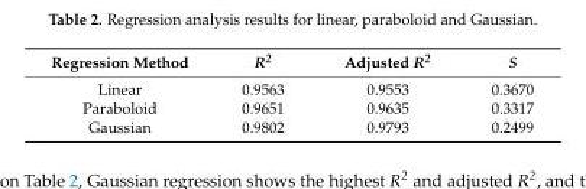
<table><thead><tr><td>Regression Method</td><td>R<sup>2</sup></td><td>Adjusted R<sup>2</sup></td><td>S</td></tr></thead><tbody><tr><td>Linear</td><td>0.9563</td><td>0.9553</td><td>0.3670</td></tr><tr><td>Paraboloid</td><td>0.9651</td><td>0.9635</td><td>0.3317</td></tr><tr><td>Gaussian</td><td>0.9802</td><td>0.9793</td><td>0.2499</td></tr></tbody></table>